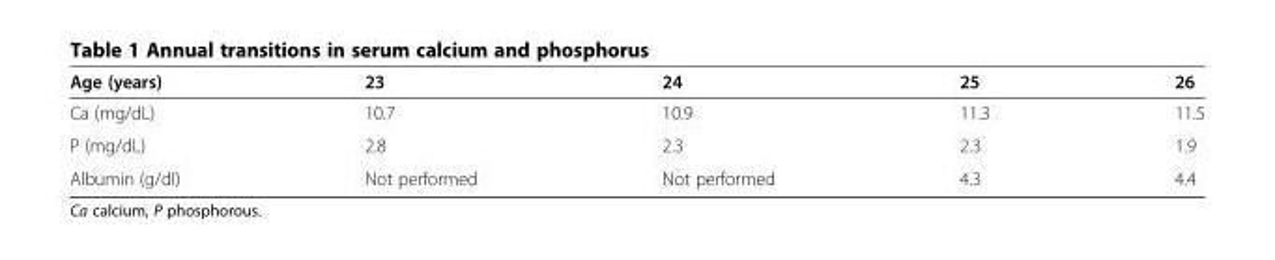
<table><thead><tr><td>Age (years)</td><td>23</td><td>24</td><td>25</td><td>26</td></tr></thead><tbody><tr><td>Ca (mg/dL)</td><td>10.7</td><td>10.9</td><td>11.3</td><td>11.5</td></tr><tr><td>P (mg/dL)</td><td>2.8</td><td>2.3</td><td>2.3</td><td>1.9</td></tr><tr><td>Albumin (g/dl)</td><td>Not performed</td><td>Not performed</td><td>4.3</td><td>4.4</td></tr></tbody></table>